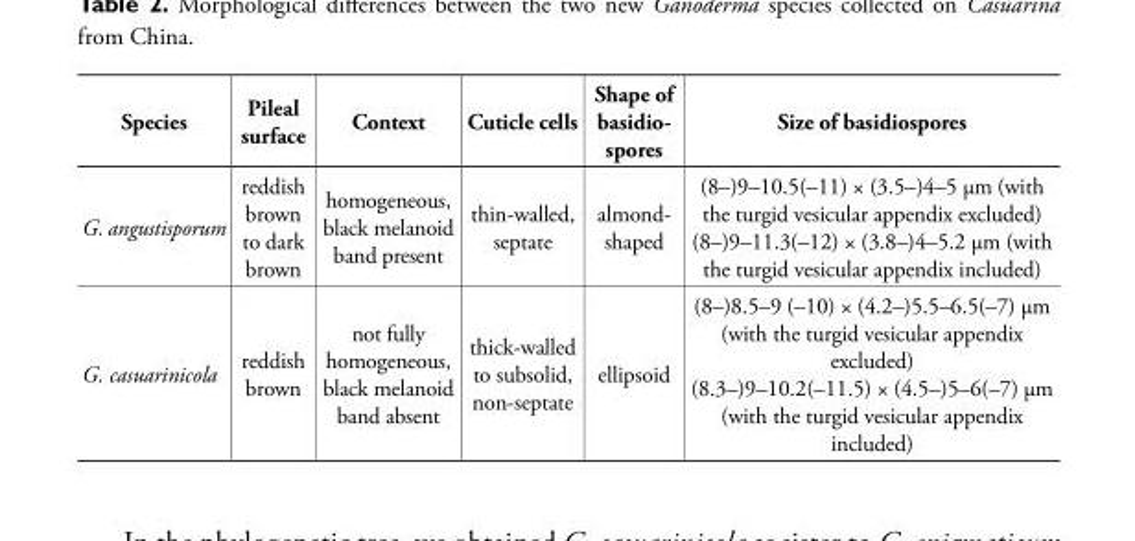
<table><thead><tr><td>Species</td><td>Pileal surface</td><td>Context</td><td>Cuticle cells</td><td>Shape of basidio- spores</td><td>Size of basidiospores</td></tr></thead><tbody><tr><td>G. angustisporum</td><td>reddish brown to dark brown</td><td>homogeneous, black melanoid band present</td><td>thin-walled, septate</td><td>almond- shaped</td><td>(8–)9–10.5(–11) × (3.5–)4–5 µm (with the turgid vesicular appendix excluded) (8–)9–11.3(–12) × (3.8–)4–5.2 µm (with the turgid vesicular appendix included)</td></tr><tr><td>G. casuarinicola</td><td>reddish brown</td><td>not fully homogeneous, black melanoid band absent</td><td>thick-walled to subsolid, non-septate</td><td>ellipsoid</td><td>(8–)8.5–9 (–10) × (4.2–)5.5–6.5(–7) µm (with the turgid vesicular appendix excluded) (8.3–)9–10.2(–11.5) × (4.5–)5–6(–7) µm (with the turgid vesicular appendix included)</td></tr></tbody></table>